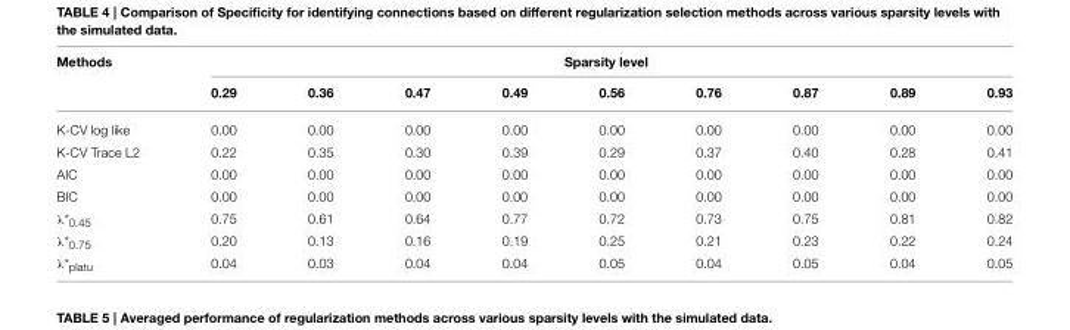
<table><thead><tr><td rowspan="2">Methods</td><td colspan="9">Sparsity level</td></tr><tr><td>0.29</td><td>0.36</td><td>0.47</td><td>0.49</td><td>0.56</td><td>0.76</td><td>0.87</td><td>0.89</td><td>0.93</td></tr></thead><tbody><tr><td>K-CV log like</td><td>0.00</td><td>0.00</td><td>0.00</td><td>0.00</td><td>0.00</td><td>0.00</td><td>0.00</td><td>0.00</td><td>0.00</td></tr><tr><td>K-CV Trace L2</td><td>0.22</td><td>0.35</td><td>0.30</td><td>0.39</td><td>0.29</td><td>0.37</td><td>0.40</td><td>0.28</td><td>0.41</td></tr><tr><td>AIC</td><td>0.00</td><td>0.00</td><td>0.00</td><td>0.00</td><td>0.00</td><td>0.00</td><td>0.00</td><td>0.00</td><td>0.00</td></tr><tr><td>BIC</td><td>0.00</td><td>0.00</td><td>0.00</td><td>0.00</td><td>0.00</td><td>0.00</td><td>0.00</td><td>0.00</td><td>0.00</td></tr><tr><td>λ*<sub>0.45</sub></td><td>0.75</td><td>0.61</td><td>0.64</td><td>0.77</td><td>0.72</td><td>0.73</td><td>0.75</td><td>0.81</td><td>0.82</td></tr><tr><td>λ*<sub>0.75</sub></td><td>0.20</td><td>0.13</td><td>0.16</td><td>0.19</td><td>0.25</td><td>0.21</td><td>0.23</td><td>0.22</td><td>0.24</td></tr><tr><td>λ*<sub>platu</sub></td><td>0.04</td><td>0.03</td><td>0.04</td><td>0.04</td><td>0.05</td><td>0.04</td><td>0.05</td><td>0.04</td><td>0.05</td></tr></tbody></table>